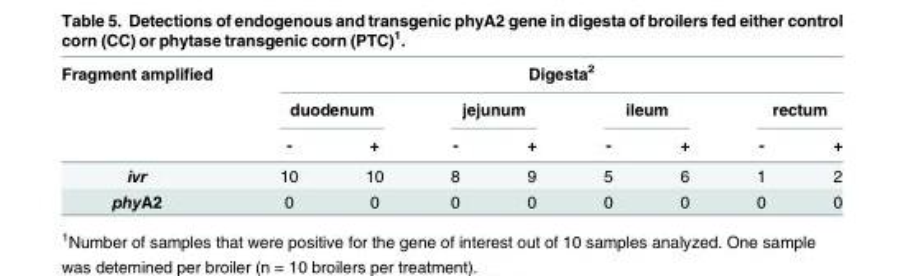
<table><thead><tr><td rowspan="3">Fragment amplified</td><td colspan="8">Digesta<sup>2</sup></td></tr><tr><td colspan="2">duodenum</td><td colspan="2">jejunum</td><td colspan="2">ileum</td><td colspan="2">rectum</td></tr><tr><td>-</td><td>+</td><td>-</td><td>+</td><td>-</td><td>+</td><td>-</td><td>+</td></tr></thead><tbody><tr><td>ivr</td><td>10</td><td>10</td><td>8</td><td>9</td><td>5</td><td>6</td><td>1</td><td>2</td></tr><tr><td>phyA2</td><td>0</td><td>0</td><td>0</td><td>0</td><td>0</td><td>0</td><td>0</td><td>0</td></tr></tbody></table>